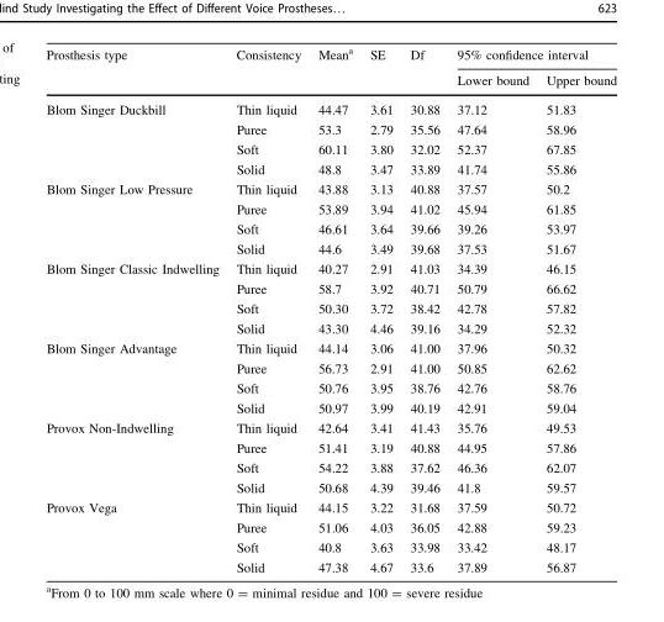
<table><thead><tr><td rowspan="2">Prosthesis type</td><td rowspan="2">Consistency</td><td rowspan="2">Mean<sup>a</sup></td><td rowspan="2">SE</td><td rowspan="2">Df</td><td colspan="2">95% confidence interval</td></tr><tr><td>Lower bound</td><td>Upper bound</td></tr></thead><tbody><tr><td rowspan="4">Blom Singer Duckbill</td><td>Thin liquid</td><td>44.47</td><td>3.61</td><td>30.88</td><td>37.12</td><td>51.83</td></tr><tr><td>Puree</td><td>53.3</td><td>2.79</td><td>35.56</td><td>47.64</td><td>58.96</td></tr><tr><td>Soft</td><td>60.11</td><td>3.80</td><td>32.02</td><td>52.37</td><td>67.85</td></tr><tr><td>Solid</td><td>48.8</td><td>3.47</td><td>33.89</td><td>41.74</td><td>55.86</td></tr><tr><td rowspan="4">Blom Singer Low Pressure</td><td>Thin liquid</td><td>43.88</td><td>3.13</td><td>40.88</td><td>37.57</td><td>50.2</td></tr><tr><td>Puree</td><td>53.89</td><td>3.94</td><td>41.02</td><td>45.94</td><td>61.85</td></tr><tr><td>Soft</td><td>46.61</td><td>3.64</td><td>39.66</td><td>39.26</td><td>53.97</td></tr><tr><td>Solid</td><td>44.6</td><td>3.49</td><td>39.68</td><td>37.53</td><td>51.67</td></tr><tr><td rowspan="4">Blom Singer Classic Indwelling</td><td>Thin liquid</td><td>40.27</td><td>2.91</td><td>41.03</td><td>34.39</td><td>46.15</td></tr><tr><td>Puree</td><td>58.7</td><td>3.92</td><td>40.71</td><td>50.79</td><td>66.62</td></tr><tr><td>Soft</td><td>50.30</td><td>3.72</td><td>38.42</td><td>42.78</td><td>57.82</td></tr><tr><td>Solid</td><td>43.30</td><td>4.46</td><td>39.16</td><td>34.29</td><td>52.32</td></tr><tr><td rowspan="4">Blom Singer Advantage</td><td>Thin liquid</td><td>44.14</td><td>3.06</td><td>41.00</td><td>37.96</td><td>50.32</td></tr><tr><td>Puree</td><td>56.73</td><td>2.91</td><td>41.00</td><td>50.85</td><td>62.62</td></tr><tr><td>Soft</td><td>50.76</td><td>3.95</td><td>38.76</td><td>42.76</td><td>58.76</td></tr><tr><td>Solid</td><td>50.97</td><td>3.99</td><td>40.19</td><td>42.91</td><td>59.04</td></tr><tr><td rowspan="4">Provox Non-Indwelling</td><td>Thin liquid</td><td>42.64</td><td>3.41</td><td>41.43</td><td>35.76</td><td>49.53</td></tr><tr><td>Puree</td><td>51.41</td><td>3.19</td><td>40.88</td><td>44.95</td><td>57.86</td></tr><tr><td>Soft</td><td>54.22</td><td>3.88</td><td>37.62</td><td>46.36</td><td>62.07</td></tr><tr><td>Solid</td><td>50.68</td><td>4.39</td><td>39.46</td><td>41.8</td><td>59.57</td></tr><tr><td rowspan="4">Provox Vega</td><td>Thin liquid</td><td>44.15</td><td>3.22</td><td>31.68</td><td>37.59</td><td>50.72</td></tr><tr><td>Puree</td><td>51.06</td><td>4.03</td><td>36.05</td><td>42.88</td><td>59.23</td></tr><tr><td>Soft</td><td>40.8</td><td>3.63</td><td>33.98</td><td>33.42</td><td>48.17</td></tr><tr><td>Solid</td><td>47.38</td><td>4.67</td><td>33.6</td><td>37.89</td><td>56.87</td></tr></tbody></table>